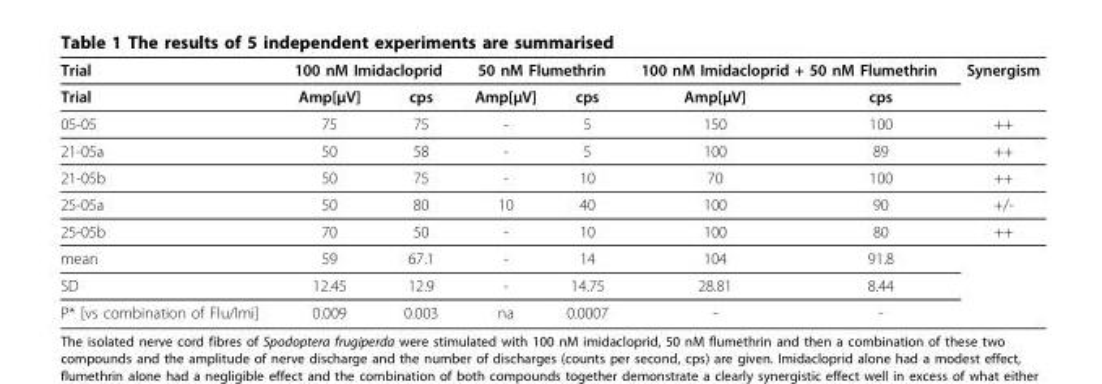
<table><thead><tr><td rowspan="2">Trial Trial</td><td colspan="2">100 nM Imidacloprid</td><td colspan="2">50 nM Flumethrin</td><td colspan="2">100 nM Imidacloprid + 50 nM Flumethrin</td><td rowspan="2">Synergism</td></tr><tr><td>Amp[μV]</td><td>cps</td><td>Amp[μV]</td><td>cps</td><td>Amp[μV]</td><td>cps</td></tr></thead><tbody><tr><td>05-05</td><td>75</td><td>75</td><td>-</td><td>5</td><td>150</td><td>100</td><td>++</td></tr><tr><td>21-05a</td><td>50</td><td>58</td><td>-</td><td>5</td><td>100</td><td>89</td><td>++</td></tr><tr><td>21-05b</td><td>50</td><td>75</td><td>-</td><td>10</td><td>70</td><td>100</td><td>++</td></tr><tr><td>25-05a</td><td>50</td><td>80</td><td>10</td><td>40</td><td>100</td><td>90</td><td>+/-</td></tr><tr><td>25-05b</td><td>70</td><td>50</td><td>-</td><td>10</td><td>100</td><td>80</td><td>++</td></tr><tr><td>mean</td><td>59</td><td>67.1</td><td>-</td><td>14</td><td>104</td><td>91.8</td><td></td></tr><tr><td>SD</td><td>12.45</td><td>12.9</td><td>-</td><td>14.75</td><td>28.81</td><td>8.44</td><td></td></tr><tr><td>P* [vs combination of Flu/Imi]</td><td>0.009</td><td>0.003</td><td>na</td><td>0.0007</td><td>-</td><td>-</td><td></td></tr></tbody></table>